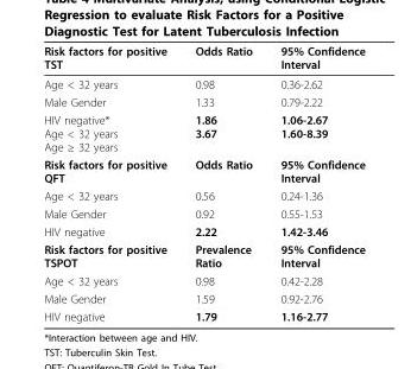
<table><thead><tr><td>Risk factors for positive TST</td><td>Odds Ratio</td><td>95% Confidence Interval</td></tr></thead><tbody><tr><td>Age &lt; 32 years</td><td>0.98</td><td>0.36-2.62</td></tr><tr><td>Male Gender</td><td>1.33</td><td>0.79-2.22</td></tr><tr><td>HIV negative* Age &lt; 32 years Age ≥ 32 years</td><td>1.86 3.67</td><td>1.06-2.67 1.60-8.39</td></tr><tr><td>Risk factors for positive QFT</td><td>Odds Ratio</td><td>95% Confidence Interval</td></tr><tr><td>Age &lt; 32 years</td><td>0.56</td><td>0.24-1.36</td></tr><tr><td>Male Gender</td><td>0.92</td><td>0.55-1.53</td></tr><tr><td>HIV negative</td><td>2.22</td><td>1.42-3.46</td></tr><tr><td>Risk factors for positive TSPOT</td><td>Prevalence Ratio</td><td>95% Confidence Interval</td></tr><tr><td>Age &lt; 32 years</td><td>0.98</td><td>0.42-2.28</td></tr><tr><td>Male Gender</td><td>1.59</td><td>0.92-2.76</td></tr><tr><td>HIV negative</td><td>1.79</td><td>1.16-2.77</td></tr></tbody></table>